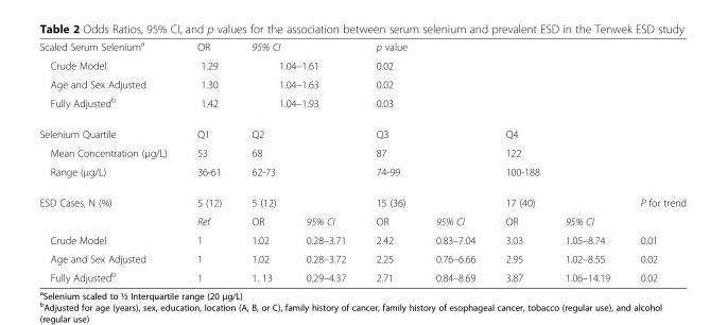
<table><tbody><tr><td>Scaled Serum Selenium<sup>a</sup></td><td>OR</td><td colspan="2">95% CI</td><td colspan="5">p value</td></tr><tr><td>Crude Model</td><td>1.29</td><td colspan="2">1.04–1.61</td><td colspan="5">0.02</td></tr><tr><td>Age and Sex Adjusted</td><td>1.30</td><td colspan="2">1.04–1.63</td><td colspan="5">0.02</td></tr><tr><td>Fully Adjusted<sup>b</sup></td><td>1.42</td><td colspan="2">1.04–1.93</td><td colspan="5">0.03</td></tr><tr><td>Selenium Quartile</td><td>Q1</td><td colspan="2">Q2</td><td colspan="2">Q3</td><td colspan="3">Q4</td></tr><tr><td>Mean Concentration (μg/L)</td><td>53</td><td colspan="2">68</td><td colspan="2">87</td><td colspan="3">122</td></tr><tr><td>Range (μg/L)</td><td>36-61</td><td colspan="2">62-73</td><td colspan="2">74-99</td><td colspan="3">100-188</td></tr><tr><td rowspan="2">ESD Cases, N (%)</td><td>5 (12)</td><td>5 (12)</td><td></td><td>15 (36)</td><td></td><td>17 (40)</td><td></td><td rowspan="2">P for trend</td></tr><tr><td>Ref</td><td>OR</td><td>95% CI</td><td>OR</td><td>95% CI</td><td>OR</td><td>95% CI</td></tr><tr><td>Crude Model</td><td>1</td><td>1.02</td><td>0.28–3.71</td><td>2.42</td><td>0.83–7.04</td><td>3.03</td><td>1.05–8.74</td><td>0.01</td></tr><tr><td>Age and Sex Adjusted</td><td>1</td><td>1.02</td><td>0.28–3.72</td><td>2.25</td><td>0.76–6.66</td><td>2.95</td><td>1.02–8.55</td><td>0.02</td></tr><tr><td>Fully Adjusted<sup>b</sup></td><td>1</td><td>1. 13</td><td>0.29–4.37</td><td>2.71</td><td>0.84–8.69</td><td>3.87</td><td>1.06–14.19</td><td>0.02</td></tr></tbody></table>